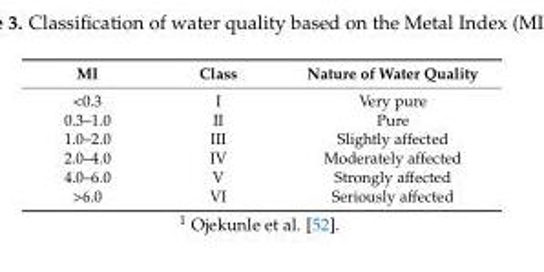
<table><thead><tr><td>MI</td><td>Class</td><td>Nature of Water Quality</td></tr></thead><tbody><tr><td>&lt;0.3</td><td>I</td><td>Very pure</td></tr><tr><td>0.3–1.0</td><td>II</td><td>Pure</td></tr><tr><td>1.0–2.0</td><td>III</td><td>Slightly affected</td></tr><tr><td>2.0–4.0</td><td>IV</td><td>Moderately affected</td></tr><tr><td>4.0–6.0</td><td>V</td><td>Strongly affected</td></tr><tr><td>&gt;6.0</td><td>VI</td><td>Seriously affected</td></tr></tbody></table>